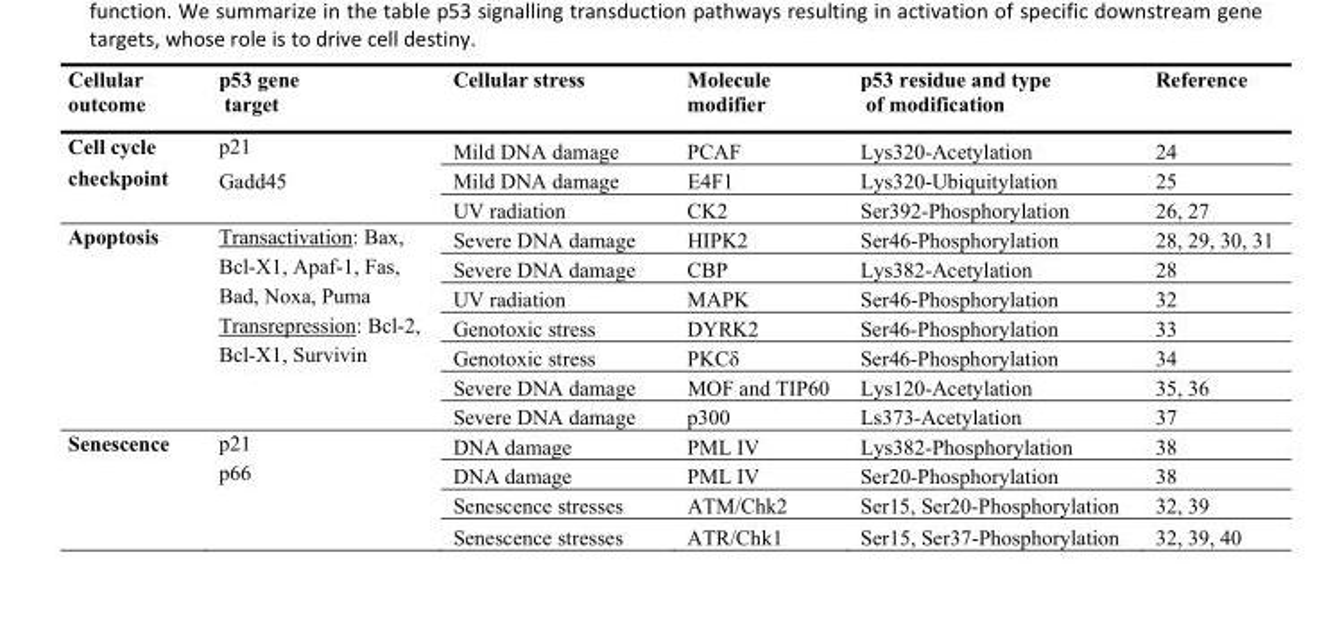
<table><thead><tr><td>Cellular outcome</td><td>p53 gene target</td><td>Cellular stress</td><td>Molecule modifier</td><td>p53 residue and type of modification</td><td>Reference</td></tr></thead><tbody><tr><td>Cell cycle</td><td>p21</td><td>Mild DNA damage</td><td>PCAF</td><td>Lys320-Acetylation</td><td>24</td></tr><tr><td rowspan="2">checkpoint</td><td rowspan="2">Gadd45</td><td>Mild DNA damage</td><td>E4F1</td><td>Lys320-Ubiquitylation</td><td>25</td></tr><tr><td>UV radiation</td><td>CK2</td><td>Ser392-Phosphorylation</td><td>26, 27</td></tr><tr><td rowspan="7">Apoptosis</td><td rowspan="3">Transactivation: Bax, Bcl-X1, Apaf-1, Fas, Bad, Noxa, Puma</td><td>Severe DNA damage</td><td>HIPK2</td><td>Ser46-Phosphorylation</td><td>28, 29, 30, 31</td></tr><tr><td>Severe DNA damage</td><td>CBP</td><td>Lys382-Acetylation</td><td>28</td></tr><tr><td>UV radiation</td><td>MAPK</td><td>Ser46-Phosphorylation</td><td>32</td></tr><tr><td rowspan="4">Transrepression: Bcl-2, Bcl-X1, Survivin</td><td>Genotoxic stress</td><td>DYRK2</td><td>Ser46-Phosphorylation</td><td>33</td></tr><tr><td>Genotoxic stress</td><td>PKCδ</td><td>Ser46-Phosphorylation</td><td>34</td></tr><tr><td>Severe DNA damage</td><td>MOF and TIP60</td><td>Lys120-Acetylation</td><td>35, 36</td></tr><tr><td>Severe DNA damage</td><td>p300</td><td>Ls373-Acetylation</td><td>37</td></tr><tr><td rowspan="4">Senescence</td><td>p21</td><td>DNA damage</td><td>PML IV</td><td>Lys382-Phosphorylation</td><td>38</td></tr><tr><td rowspan="3">p66</td><td>DNA damage</td><td>PML IV</td><td>Ser20-Phosphorylation</td><td>38</td></tr><tr><td>Senescence stresses</td><td>ATM/Chk2</td><td>Ser15, Ser20-Phosphorylation</td><td>32, 39</td></tr><tr><td>Senescence stresses</td><td>ATR/Chk1</td><td>Ser15, Ser37-Phosphorylation</td><td>32, 39, 40</td></tr></tbody></table>